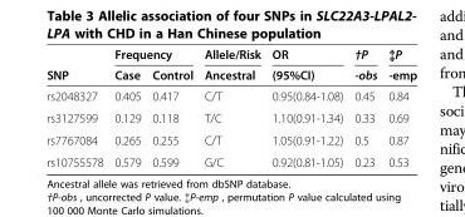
<table><thead><tr><td rowspan="2">SNP</td><td colspan="2">Frequency</td><td rowspan="2">Allele/Risk Ancestral</td><td rowspan="2">OR (95%CI)</td><td rowspan="2">†P -obs</td><td rowspan="2">{{P -emp</td></tr><tr><td>Case</td><td>Control</td></tr></thead><tbody><tr><td>rs2048327</td><td>0.405</td><td>0.417</td><td>C/T</td><td>0.95(0.84-1.08)</td><td>0.45</td><td>0.84</td></tr><tr><td>rs3127599</td><td>0.129</td><td>0.118</td><td>T/C</td><td>1.10(0.91-1.34)</td><td>0.33</td><td>0.69</td></tr><tr><td>rs7767084</td><td>0.265</td><td>0.255</td><td>C/T</td><td>1.05(0.91-1.22)</td><td>0.5</td><td>0.87</td></tr><tr><td>rs10755578</td><td>0.579</td><td>0.599</td><td>G/C</td><td>0.92(0.81-1.05)</td><td>0.23</td><td>0.53</td></tr></tbody></table>